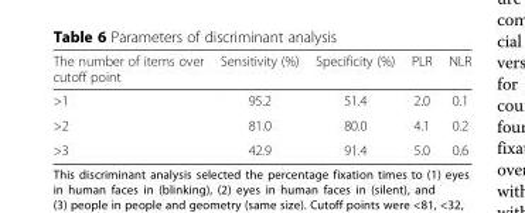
<table><thead><tr><td>The number of items over cutoff point</td><td>Sensitivity (%)</td><td>Specificity (%)</td><td>PLR</td><td>NLR</td></tr></thead><tbody><tr><td>&gt;1</td><td>95.2</td><td>51.4</td><td>2.0</td><td>0.1</td></tr><tr><td>&gt;2</td><td>81.0</td><td>80.0</td><td>4.1</td><td>0.2</td></tr><tr><td>&gt;3</td><td>42.9</td><td>91.4</td><td>5.0</td><td>0.6</td></tr></tbody></table>